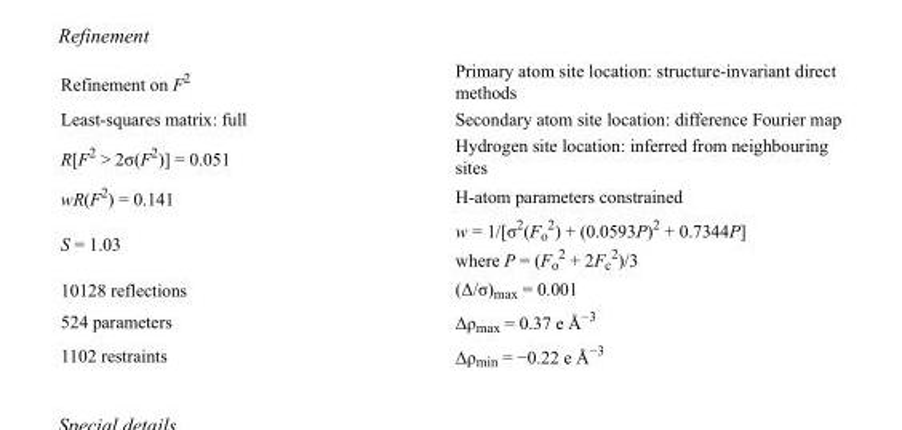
<table><tbody><tr><td>Refinement on F<sup>2</sup></td><td>Primary atom site location: structure-invariant direct methods</td></tr><tr><td>Least-squares matrix: full</td><td>Secondary atom site location: difference Fourier map</td></tr><tr><td>R[F<sup>2</sup> &gt; 2σ(F<sup>2</sup>)] = 0.051</td><td>Hydrogen site location: inferred from neighbouring sites</td></tr><tr><td>wR(F<sup>2</sup>) = 0.141</td><td>H-atom parameters constrained</td></tr><tr><td>S = 1.03</td><td>w = 1/[σ<sup>2</sup>(F<sub>o</sub> <sup>2</sup>) + (0.0593P)<sup>2</sup> + 0.7344P] where P = (F<sub>o</sub> <sup>2</sup> + 2F<sub>c</sub> <sup>2</sup>)/3</td></tr><tr><td>10128 reflections</td><td>(Δ/σ)<sub>max</sub> = 0.001</td></tr><tr><td>524 parameters</td><td>Δρ<sub>max</sub> = 0.37 e Å<sup>−3</sup></td></tr><tr><td>1102 restraints</td><td>Δρ<sub>min</sub> = −0.22 e Å<sup>−3</sup></td></tr></tbody></table>